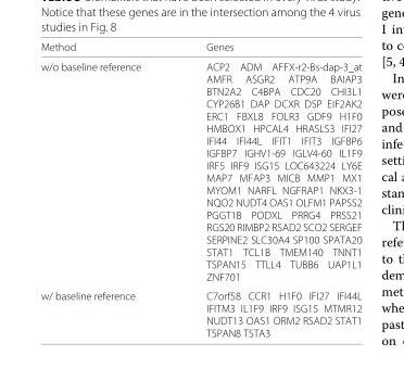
<table><thead><tr><td>Method</td><td>Genes</td></tr></thead><tbody><tr><td>w/o baseline reference</td><td>ACP2 ADM AFFX-r2-Bs-dap-3_at AMFR ASGR2 ATP9A BAIAP3 BTN2A2 C4BPA CDC20 CHI3L1 CYP26B1 DAP DCXR DSP EIF2AK2 ERC1 FBXL8 FOLR3 GDF9 H1F0 HMBOX1 HPCAL4 HRASLS3 IFI27 IFI44 IFI44L IFIT1 IFIT3 IGFBP6 IGFBP7 IGHV1-69 IGLV4-60 IL1F9 IRF5 IRF9 ISG15 LOC643224 LY6E MAP7 MFAP3 MICB MMP1 MX1 MYOM1 NARFL NGFRAP1 NKX3-1 NQO2 NUDT4 OAS1 OLFM1 PAPSS2 PGGT1B PODXL PRRG4 PRSS21 RGS20 RIMBP2 RSAD2 SCO2 SERGEF SERPINE2 SLC30A4 SP100 SPATA20 STAT1 TCL1B TMEM140 TNNT1 TSPAN15 TTLL4 TUBB6 UAP1L1 ZNF701</td></tr><tr><td>w/ baseline reference</td><td>C7orf58 CCR1 H1F0 IFI27 IFI44L IFITM3 IL1F9 IRF9 ISG15 MTMR12 NUDT13 OAS1 ORM2 RSAD2 STAT1 TSPAN8 TSTA3</td></tr></tbody></table>